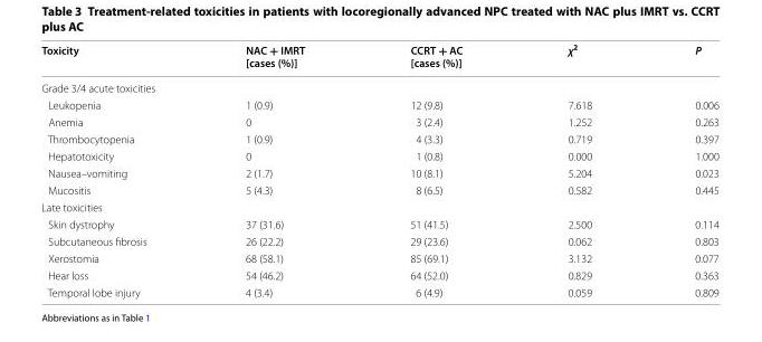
<table><thead><tr><td>Toxicity</td><td>NAC + IMRT [cases (%)]</td><td>CCRT + AC [cases (%)]</td><td>χ<sup>2</sup></td><td>P</td></tr></thead><tbody><tr><td colspan="5">Grade 3/4 acute toxicities</td></tr><tr><td>Leukopenia</td><td>1 (0.9)</td><td>12 (9.8)</td><td>7.618</td><td>0.006</td></tr><tr><td>Anemia</td><td>0</td><td>3 (2.4)</td><td>1.252</td><td>0.263</td></tr><tr><td>Thrombocytopenia</td><td>1 (0.9)</td><td>4 (3.3)</td><td>0.719</td><td>0.397</td></tr><tr><td>Hepatotoxicity</td><td>0</td><td>1 (0.8)</td><td>0.000</td><td>1.000</td></tr><tr><td>Nausea–vomiting</td><td>2 (1.7)</td><td>10 (8.1)</td><td>5.204</td><td>0.023</td></tr><tr><td>Mucositis</td><td>5 (4.3)</td><td>8 (6.5)</td><td>0.582</td><td>0.445</td></tr><tr><td colspan="5">Late toxicities</td></tr><tr><td>Skin dystrophy</td><td>37 (31.6)</td><td>51 (41.5)</td><td>2.500</td><td>0.114</td></tr><tr><td>Subcutaneous fibrosis</td><td>26 (22.2)</td><td>29 (23.6)</td><td>0.062</td><td>0.803</td></tr><tr><td>Xerostomia</td><td>68 (58.1)</td><td>85 (69.1)</td><td>3.132</td><td>0.077</td></tr><tr><td>Hear loss</td><td>54 (46.2)</td><td>64 (52.0)</td><td>0.829</td><td>0.363</td></tr><tr><td>Temporal lobe injury</td><td>4 (3.4)</td><td>6 (4.9)</td><td>0.059</td><td>0.809</td></tr></tbody></table>